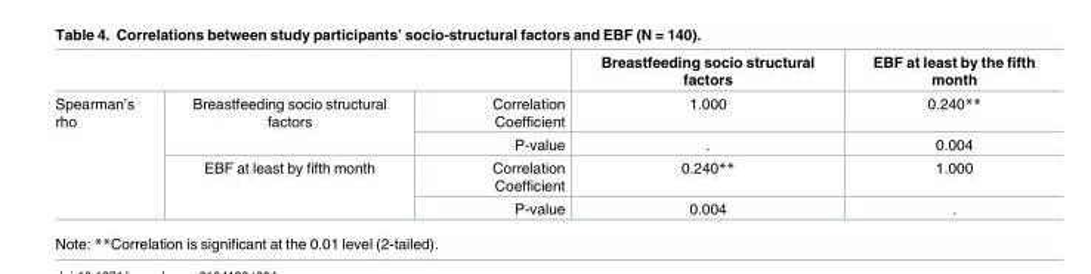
<table><thead><tr><td></td><td></td><td></td><td>Breastfeeding socio structural factors</td><td>EBF at least by the fifth month</td></tr></thead><tbody><tr><td rowspan="4">Spearman’s rho</td><td rowspan="2">Breastfeeding socio structural factors</td><td>Correlation Coefficient</td><td>1.000</td><td>0.240**</td></tr><tr><td>P-value</td><td>.</td><td>0.004</td></tr><tr><td rowspan="2">EBF at least by fifth month</td><td>Correlation Coefficient</td><td>0.240**</td><td>1.000</td></tr><tr><td>P-value</td><td>0.004</td><td>.</td></tr></tbody></table>